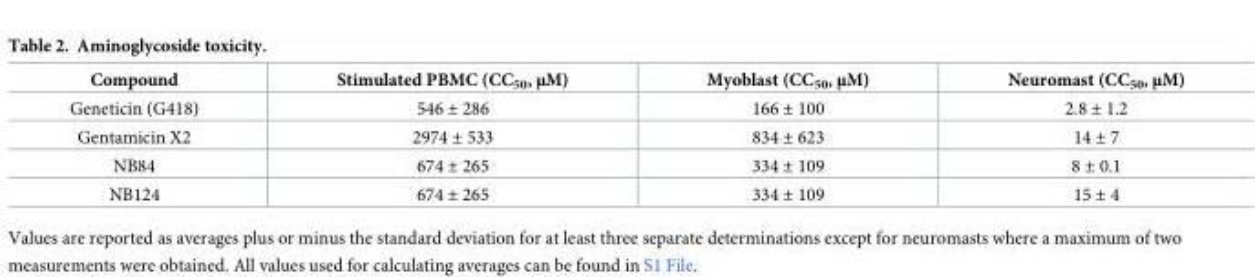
<table><thead><tr><td>Compound</td><td>Stimulated PBMC (CC<sub>50</sub>, μM)</td><td>Myoblast (CC<sub>50</sub>, μM)</td><td>Neuromast (CC<sub>50</sub>, μM)</td></tr></thead><tbody><tr><td>Geneticin (G418)</td><td>546 ± 286</td><td>166 ± 100</td><td>2.8 ± 1.2</td></tr><tr><td>Gentamicin X2</td><td>2974 ± 533</td><td>834 ± 623</td><td>14 ± 7</td></tr><tr><td>NB84</td><td>674 ± 265</td><td>334 ± 109</td><td>8 ± 0.1</td></tr><tr><td>NB124</td><td>674 ± 265</td><td>334 ± 109</td><td>15 ± 4</td></tr></tbody></table>